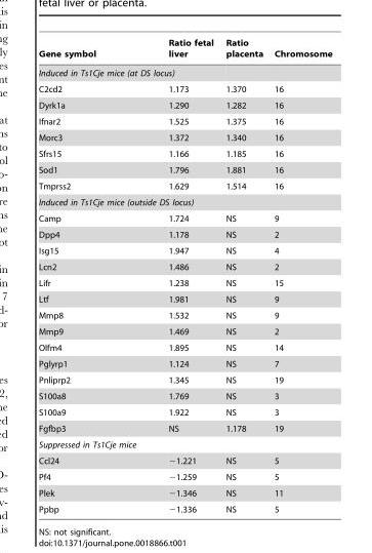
<table><thead><tr><td>Gene symbol</td><td>Ratio fetal liver</td><td>Ratio placenta</td><td>Chromosome</td></tr></thead><tbody><tr><td colspan="4">Induced in Ts1Cje mice (at DS locus)</td></tr><tr><td>C2cd2</td><td>1.173</td><td>1.370</td><td>16</td></tr><tr><td>Dyrk1a</td><td>1.290</td><td>1.282</td><td>16</td></tr><tr><td>Ifnar2</td><td>1.525</td><td>1.375</td><td>16</td></tr><tr><td>Morc3</td><td>1.372</td><td>1.340</td><td>16</td></tr><tr><td>Sfrs15</td><td>1.166</td><td>1.185</td><td>16</td></tr><tr><td>Sod1</td><td>1.796</td><td>1.881</td><td>16</td></tr><tr><td>Tmprss2</td><td>1.629</td><td>1.514</td><td>16</td></tr><tr><td colspan="4">Induced in Ts1Cje mice (outside DS locus)</td></tr><tr><td>Camp</td><td>1.724</td><td>NS</td><td>9</td></tr><tr><td>Dpp4</td><td>1.178</td><td>NS</td><td>2</td></tr><tr><td>Isg15</td><td>1.947</td><td>NS</td><td>4</td></tr><tr><td>Lcn2</td><td>1.486</td><td>NS</td><td>2</td></tr><tr><td>Lifr</td><td>1.238</td><td>NS</td><td>15</td></tr><tr><td>Ltf</td><td>1.981</td><td>NS</td><td>9</td></tr><tr><td>Mmp8</td><td>1.532</td><td>NS</td><td>9</td></tr><tr><td>Mmp9</td><td>1.469</td><td>NS</td><td>2</td></tr><tr><td>Olfm4</td><td>1.895</td><td>NS</td><td>14</td></tr><tr><td>Pglyrp1</td><td>1.124</td><td>NS</td><td>7</td></tr><tr><td>Pnliprp2</td><td>1.345</td><td>NS</td><td>19</td></tr><tr><td>S100a8</td><td>1.769</td><td>NS</td><td>3</td></tr><tr><td>S100a9</td><td>1.922</td><td>NS</td><td>3</td></tr><tr><td>Fgfbp3</td><td>NS</td><td>1.178</td><td>19</td></tr><tr><td colspan="4">Suppressed in Ts1Cje mice</td></tr><tr><td>Ccl24</td><td>−1.221</td><td>NS</td><td>5</td></tr><tr><td>Pf4</td><td>−1.259</td><td>NS</td><td>5</td></tr><tr><td>Plek</td><td>−1.346</td><td>NS</td><td>11</td></tr><tr><td>Ppbp</td><td>−1.336</td><td>NS</td><td>5</td></tr></tbody></table>